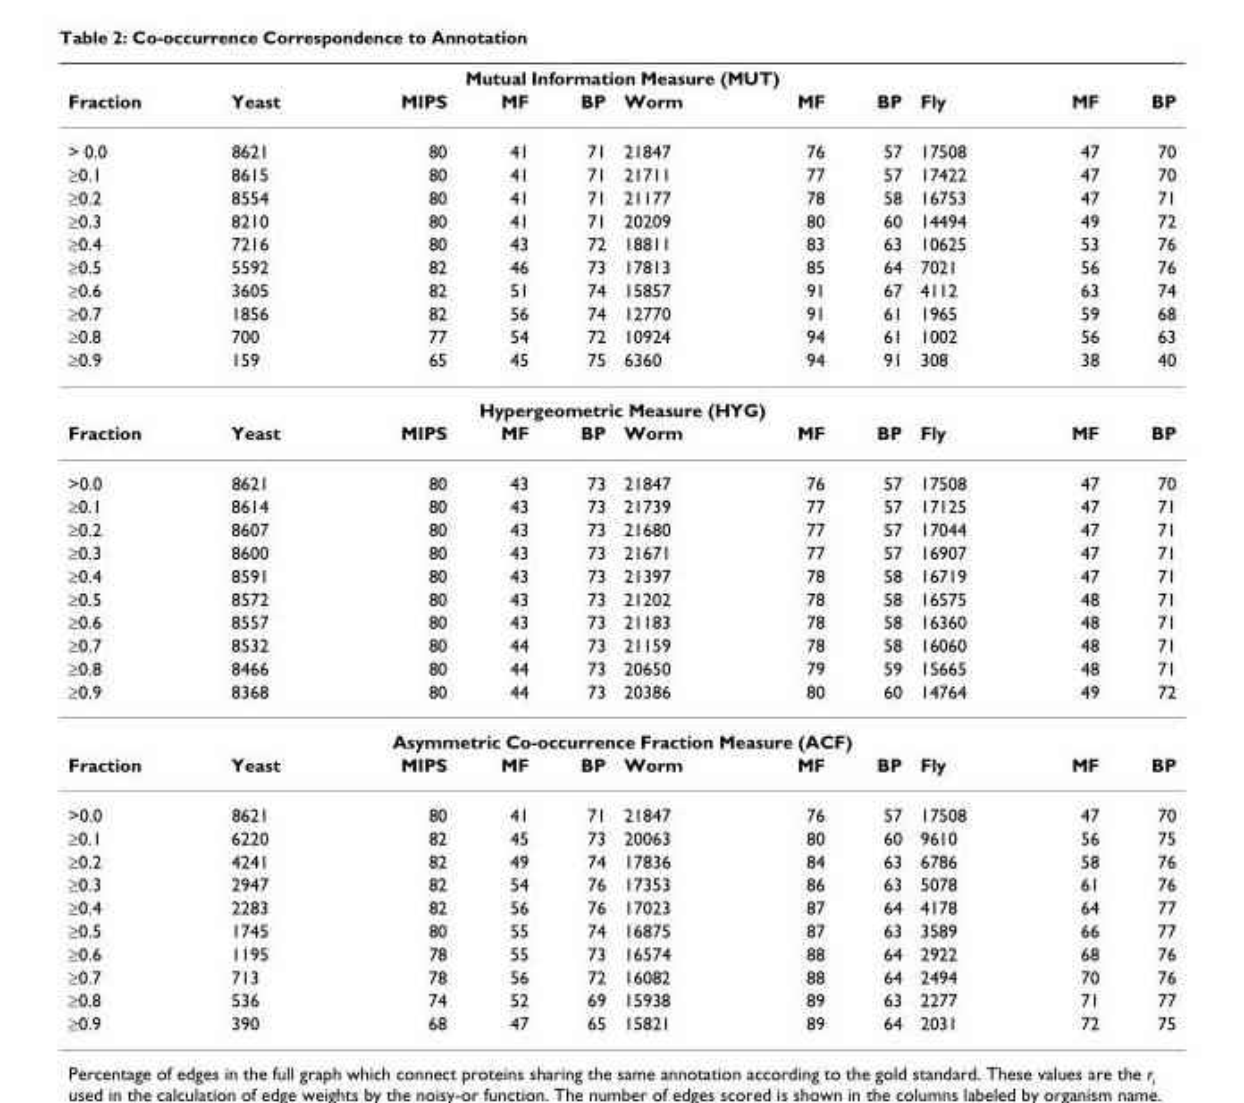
<table><thead><tr><td colspan="11">Mutual Information Measure (MUT)</td></tr><tr><td>Fraction</td><td>Yeast</td><td>MIPS</td><td>MF</td><td>BP</td><td>Worm</td><td>MF</td><td>BP</td><td>Fly</td><td>MF</td><td>BP</td></tr></thead><tbody><tr><td>&gt; 0.0</td><td>8621</td><td>80</td><td>41</td><td>71</td><td>21847</td><td>76</td><td>57</td><td>17508</td><td>47</td><td>70</td></tr><tr><td>≥0.1</td><td>8615</td><td>80</td><td>41</td><td>71</td><td>21711</td><td>77</td><td>57</td><td>17422</td><td>47</td><td>70</td></tr><tr><td>≥0.2</td><td>8554</td><td>80</td><td>41</td><td>71</td><td>21177</td><td>78</td><td>58</td><td>16753</td><td>47</td><td>71</td></tr><tr><td>≥0.3</td><td>8210</td><td>80</td><td>41</td><td>71</td><td>20209</td><td>80</td><td>60</td><td>14494</td><td>49</td><td>72</td></tr><tr><td>≥0.4</td><td>7216</td><td>80</td><td>43</td><td>72</td><td>18811</td><td>83</td><td>63</td><td>10625</td><td>53</td><td>76</td></tr><tr><td>≥0.5</td><td>5592</td><td>82</td><td>46</td><td>73</td><td>17813</td><td>85</td><td>64</td><td>7021</td><td>56</td><td>76</td></tr><tr><td>≥0.6</td><td>3605</td><td>82</td><td>51</td><td>74</td><td>15857</td><td>91</td><td>67</td><td>4112</td><td>63</td><td>74</td></tr><tr><td>≥0.7</td><td>1856</td><td>82</td><td>56</td><td>74</td><td>12770</td><td>91</td><td>61</td><td>1965</td><td>59</td><td>68</td></tr><tr><td>≥0.8</td><td>700</td><td>77</td><td>54</td><td>72</td><td>10924</td><td>94</td><td>61</td><td>1002</td><td>56</td><td>63</td></tr><tr><td>≥0.9</td><td>159</td><td>65</td><td>45</td><td>75</td><td>6360</td><td>94</td><td>91</td><td>308</td><td>38</td><td>40</td></tr><tr><td colspan="11">Hypergeometric Measure (HYG)</td></tr><tr><td>Fraction</td><td>Yeast</td><td>MIPS</td><td>MF</td><td>BP</td><td>Worm</td><td>MF</td><td>BP</td><td>Fly</td><td>MF</td><td>BP</td></tr><tr><td>&gt;0.0</td><td>8621</td><td>80</td><td>43</td><td>73</td><td>21847</td><td>76</td><td>57</td><td>17508</td><td>47</td><td>70</td></tr><tr><td>≥0.1</td><td>8614</td><td>80</td><td>43</td><td>73</td><td>21739</td><td>77</td><td>57</td><td>17125</td><td>47</td><td>71</td></tr><tr><td>≥0.2</td><td>8607</td><td>80</td><td>43</td><td>73</td><td>21680</td><td>77</td><td>57</td><td>17044</td><td>47</td><td>71</td></tr><tr><td>≥0.3</td><td>8600</td><td>80</td><td>43</td><td>73</td><td>21671</td><td>77</td><td>57</td><td>16907</td><td>47</td><td>71</td></tr><tr><td>≥0.4</td><td>8591</td><td>80</td><td>43</td><td>73</td><td>21397</td><td>78</td><td>58</td><td>16719</td><td>47</td><td>71</td></tr><tr><td>≥0.5</td><td>8572</td><td>80</td><td>43</td><td>73</td><td>21202</td><td>78</td><td>58</td><td>16575</td><td>48</td><td>71</td></tr><tr><td>≥0.6</td><td>8557</td><td>80</td><td>43</td><td>73</td><td>21183</td><td>78</td><td>58</td><td>16360</td><td>48</td><td>71</td></tr><tr><td>≥0.7</td><td>8532</td><td>80</td><td>44</td><td>73</td><td>21159</td><td>78</td><td>58</td><td>16060</td><td>48</td><td>71</td></tr><tr><td>≥0.8</td><td>8466</td><td>80</td><td>44</td><td>73</td><td>20650</td><td>79</td><td>59</td><td>15665</td><td>48</td><td>71</td></tr><tr><td>≥0.9</td><td>8368</td><td>80</td><td>44</td><td>73</td><td>20386</td><td>80</td><td>60</td><td>14764</td><td>49</td><td>72</td></tr><tr><td colspan="11">Asymmetric Co-occurrence Fraction Measure (ACF)</td></tr><tr><td>Fraction</td><td>Yeast</td><td>MIPS</td><td>MF</td><td>BP</td><td>Worm</td><td>MF</td><td>BP</td><td>Fly</td><td>MF</td><td>BP</td></tr><tr><td>&gt;0.0</td><td>8621</td><td>80</td><td>41</td><td>71</td><td>21847</td><td>76</td><td>57</td><td>17508</td><td>47</td><td>70</td></tr><tr><td>≥0.1</td><td>6220</td><td>82</td><td>45</td><td>73</td><td>20063</td><td>80</td><td>60</td><td>9610</td><td>56</td><td>75</td></tr><tr><td>≥0.2</td><td>4241</td><td>82</td><td>49</td><td>74</td><td>17836</td><td>84</td><td>63</td><td>6786</td><td>58</td><td>76</td></tr><tr><td>≥0.3</td><td>2947</td><td>82</td><td>54</td><td>76</td><td>17353</td><td>86</td><td>63</td><td>5078</td><td>61</td><td>76</td></tr><tr><td>≥0.4</td><td>2283</td><td>82</td><td>56</td><td>76</td><td>17023</td><td>87</td><td>64</td><td>4178</td><td>64</td><td>77</td></tr><tr><td>≥0.5</td><td>1745</td><td>80</td><td>55</td><td>74</td><td>16875</td><td>87</td><td>63</td><td>3589</td><td>66</td><td>77</td></tr><tr><td>≥0.6</td><td>1195</td><td>78</td><td>55</td><td>73</td><td>16574</td><td>88</td><td>64</td><td>2922</td><td>68</td><td>76</td></tr><tr><td>≥0.7</td><td>713</td><td>78</td><td>56</td><td>72</td><td>16082</td><td>88</td><td>64</td><td>2494</td><td>70</td><td>76</td></tr><tr><td>≥0.8</td><td>536</td><td>74</td><td>52</td><td>69</td><td>15938</td><td>89</td><td>63</td><td>2277</td><td>71</td><td>77</td></tr><tr><td>≥0.9</td><td>390</td><td>68</td><td>47</td><td>65</td><td>15821</td><td>89</td><td>64</td><td>2031</td><td>72</td><td>75</td></tr></tbody></table>